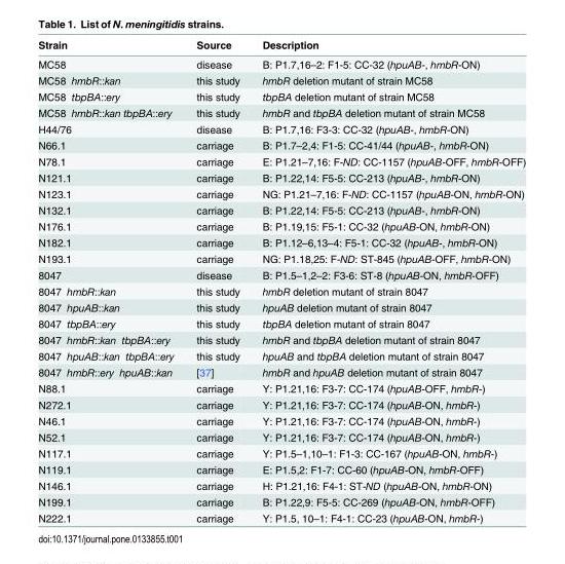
<table><thead><tr><td>Strain</td><td>Source</td><td>Description</td></tr></thead><tbody><tr><td>MC58</td><td>disease</td><td>B: P1.7,16–2: F1-5: CC-32 (hpuAB-, hmbR-ON)</td></tr><tr><td>MC58 ΔhmbR::kan</td><td>this study</td><td>hmbR deletion mutant of strain MC58</td></tr><tr><td>MC58 ΔtbpBA::ery</td><td>this study</td><td>tbpBA deletion mutant of strain MC58</td></tr><tr><td>MC58 ΔhmbR::kanΔtbpBA::ery</td><td>this study</td><td>hmbR and tbpBA deletion mutant of strain MC58</td></tr><tr><td>H44/76</td><td>disease</td><td>B: P1.7,16: F3-3: CC-32 (hpuAB-, hmbR-ON)</td></tr><tr><td>N66.1</td><td>carriage</td><td>B: P1.7–2,4: F1-5: CC-41/44 (hpuAB-, hmbR-ON)</td></tr><tr><td>N78.1</td><td>carriage</td><td>E: P1.21–7,16: F-ND: CC-1157 (hpuAB-OFF, hmbR-OFF)</td></tr><tr><td>N121.1</td><td>carriage</td><td>B: P1.22,14: F5-5: CC-213 (hpuAB-, hmbR-ON)</td></tr><tr><td>N123.1</td><td>carriage</td><td>NG: P1.21–7,16: F-ND: CC-1157 (hpuAB-ON, hmbR-ON)</td></tr><tr><td>N132.1</td><td>carriage</td><td>B: P1.22,14: F5-5: CC-213 (hpuAB-, hmbR-ON)</td></tr><tr><td>N176.1</td><td>carriage</td><td>B: P1.19,15: F5-1: CC-32 (hpuAB-ON, hmbR-ON)</td></tr><tr><td>N182.1</td><td>carriage</td><td>B: P1.12–6,13–4: F5-1: CC-32 (hpuAB-, hmbR-ON)</td></tr><tr><td>N193.1</td><td>carriage</td><td>NG: P1.18,25: F-ND: ST-845 (hpuAB-OFF, hmbR-ON)</td></tr><tr><td>8047</td><td>disease</td><td>B: P1.5–1,2–2: F3-6: ST-8 (hpuAB-ON, hmbR-OFF)</td></tr><tr><td>8047 ΔhmbR::kan</td><td>this study</td><td>hmbR deletion mutant of strain 8047</td></tr><tr><td>8047 ΔhpuAB::kan</td><td>this study</td><td>hpuAB deletion mutant of strain 8047</td></tr><tr><td>8047 ΔtbpBA::ery</td><td>this study</td><td>tbpBA deletion mutant of strain 8047</td></tr><tr><td>8047 ΔhmbR::kan ΔtbpBA::ery</td><td>this study</td><td>hmbR and tbpBA deletion mutant of strain 8047</td></tr><tr><td>8047 ΔhpuAB::kan ΔtbpBA::ery</td><td>this study</td><td>hpuAB and tbpBA deletion mutant of strain 8047</td></tr><tr><td>8047 ΔhmbR::ery ΔhpuAB::kan</td><td>[37]</td><td>hmbR and hpuAB deletion mutant of strain 8047</td></tr><tr><td>N88.1</td><td>carriage</td><td>Y: P1.21,16: F3-7: CC-174 (hpuAB-OFF, hmbR-)</td></tr><tr><td>N272.1</td><td>carriage</td><td>Y: P1.21,16: F3-7: CC-174 (hpuAB-ON, hmbR-)</td></tr><tr><td>N46.1</td><td>carriage</td><td>Y: P1.21,16: F3-7: CC-174 (hpuAB-ON, hmbR-)</td></tr><tr><td>N52.1</td><td>carriage</td><td>Y: P1.21,16: F3-7: CC-174 (hpuAB-ON, hmbR-)</td></tr><tr><td>N117.1</td><td>carriage</td><td>Y: P1.5–1,10–1: F1-3: CC-167 (hpuAB-ON, hmbR-)</td></tr><tr><td>N119.1</td><td>carriage</td><td>E: P1.5,2: F1-7: CC-60 (hpuAB-ON, hmbR-OFF)</td></tr><tr><td>N146.1</td><td>carriage</td><td>H: P1.21,16: F4-1: ST-ND (hpuAB-ON, hmbR-ON)</td></tr><tr><td>N199.1</td><td>carriage</td><td>B: P1.22,9: F5-5: CC-269 (hpuAB-ON, hmbR-OFF)</td></tr><tr><td>N222.1</td><td>carriage</td><td>Y: P1.5, 10–1: F4-1: CC-23 (hpuAB-ON, hmbR-)</td></tr></tbody></table>